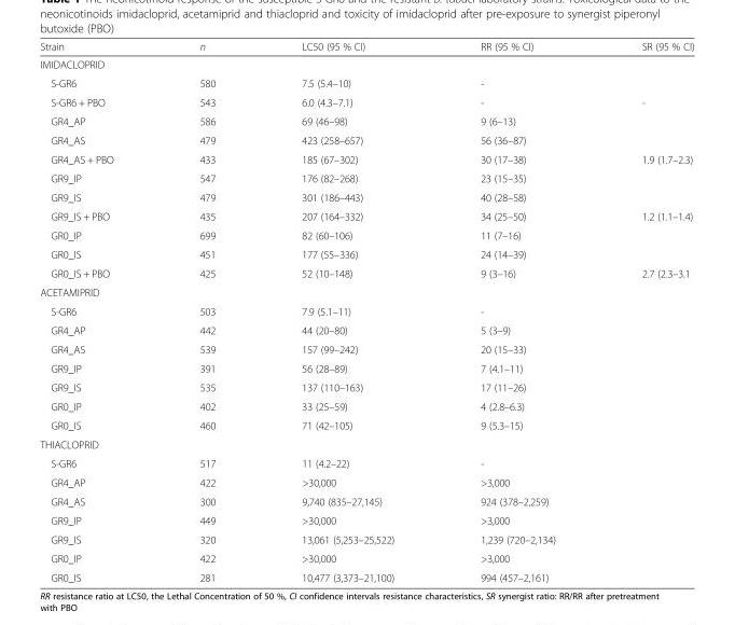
<table><thead><tr><td>Strain</td><td>n</td><td>LC50 (95 % CI)</td><td>RR (95 % CI)</td><td>SR (95 % CI)</td></tr></thead><tbody><tr><td colspan="5">IMIDACLOPRID</td></tr><tr><td>S-GR6</td><td>580</td><td>7.5 (5.4–10)</td><td>-</td><td></td></tr><tr><td>S-GR6 + PBO</td><td>543</td><td>6.0 (4.3–7.1)</td><td>-</td><td>-</td></tr><tr><td>GR4_AP</td><td>586</td><td>69 (46–98)</td><td>9 (6–13)</td><td></td></tr><tr><td>GR4_AS</td><td>479</td><td>423 (258–657)</td><td>56 (36–87)</td><td></td></tr><tr><td>GR4_AS + PBO</td><td>433</td><td>185 (67–302)</td><td>30 (17–38)</td><td>1.9 (1.7–2.3)</td></tr><tr><td>GR9_IP</td><td>547</td><td>176 (82–268)</td><td>23 (15–35)</td><td></td></tr><tr><td>GR9_IS</td><td>479</td><td>301 (186–443)</td><td>40 (28–58)</td><td></td></tr><tr><td>GR9_IS + PBO</td><td>435</td><td>207 (164–332)</td><td>34 (25–50)</td><td>1.2 (1.1–1.4)</td></tr><tr><td>GR0_IP</td><td>699</td><td>82 (60–106)</td><td>11 (7–16)</td><td></td></tr><tr><td>GR0_IS</td><td>451</td><td>177 (55–336)</td><td>24 (14–39)</td><td></td></tr><tr><td>GR0_IS + PBO</td><td>425</td><td>52 (10–148)</td><td>9 (3–16)</td><td>2.7 (2.3–3.1</td></tr><tr><td colspan="5">ACETAMIPRID</td></tr><tr><td>S-GR6</td><td>503</td><td>7.9 (5.1–11)</td><td>-</td><td></td></tr><tr><td>GR4_AP</td><td>442</td><td>44 (20–80)</td><td>5 (3–9)</td><td></td></tr><tr><td>GR4_AS</td><td>539</td><td>157 (99–242)</td><td>20 (15–33)</td><td></td></tr><tr><td>GR9_IP</td><td>391</td><td>56 (28–89)</td><td>7 (4.1–11)</td><td></td></tr><tr><td>GR9_IS</td><td>535</td><td>137 (110–163)</td><td>17 (11–26)</td><td></td></tr><tr><td>GR0_IP</td><td>402</td><td>33 (25–59)</td><td>4 (2.8–6.3)</td><td></td></tr><tr><td>GR0_IS</td><td>460</td><td>71 (42–105)</td><td>9 (5.3–15)</td><td></td></tr><tr><td colspan="5">THIACLOPRID</td></tr><tr><td>S-GR6</td><td>517</td><td>11 (4.2–22)</td><td>-</td><td></td></tr><tr><td>GR4_AP</td><td>422</td><td>&gt;30,000</td><td>&gt;3,000</td><td></td></tr><tr><td>GR4_AS</td><td>300</td><td>9,740 (835–27,145)</td><td>924 (378–2,259)</td><td></td></tr><tr><td>GR9_IP</td><td>449</td><td>&gt;30,000</td><td>&gt;3,000</td><td></td></tr><tr><td>GR9_IS</td><td>320</td><td>13,061 (5,253–25,522)</td><td>1,239 (720–2,134)</td><td></td></tr><tr><td>GR0_IP</td><td>422</td><td>&gt;30,000</td><td>&gt;3,000</td><td></td></tr><tr><td>GR0_IS</td><td>281</td><td>10,477 (3,373–21,100)</td><td>994 (457–2,161)</td><td></td></tr></tbody></table>